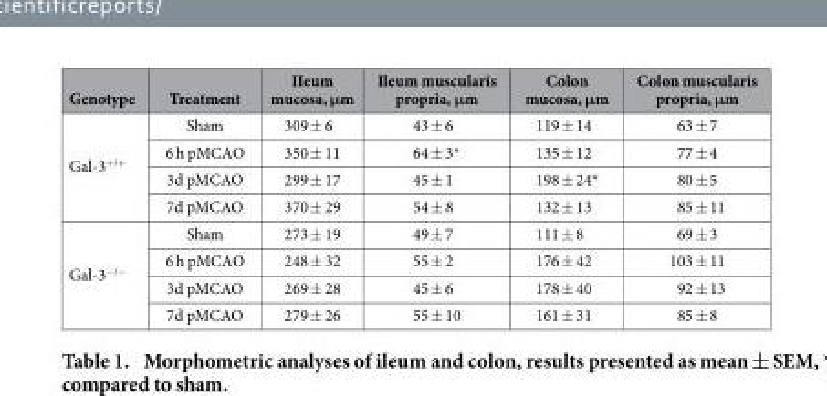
<table><thead><tr><td>Genotype</td><td>Treatment</td><td>IIeum mucosa, μm</td><td>Ileum muscularis propria, μm</td><td>Colon mucosa, μm</td><td>Colon muscularis propria, μm</td></tr></thead><tbody><tr><td rowspan="4">Gal-3<sup>+/+</sup></td><td>Sham</td><td>309 ± 6</td><td>43 ± 6</td><td>119 ± 14</td><td>63 ± 7</td></tr><tr><td>6 h pMCAO</td><td>350 ± 11</td><td>64 ± 3*</td><td>135 ± 12</td><td>77 ± 4</td></tr><tr><td>3d pMCAO</td><td>299 ± 17</td><td>45 ± 1</td><td>198 ± 24*</td><td>80 ± 5</td></tr><tr><td>7d pMCAO</td><td>370 ± 29</td><td>54 ± 8</td><td>132 ± 13</td><td>85 ± 11</td></tr><tr><td rowspan="4">Gal-3<sup>−/−</sup></td><td>Sham</td><td>273 ± 19</td><td>49 ± 7</td><td>111 ± 8</td><td>69 ± 3</td></tr><tr><td>6 h pMCAO</td><td>248 ± 32</td><td>55 ± 2</td><td>176 ± 42</td><td>103 ± 11</td></tr><tr><td>3d pMCAO</td><td>269 ± 28</td><td>45 ± 6</td><td>178 ± 40</td><td>92 ± 13</td></tr><tr><td>7d pMCAO</td><td>279 ± 26</td><td>55 ± 10</td><td>161 ± 31</td><td>85 ± 8</td></tr></tbody></table>